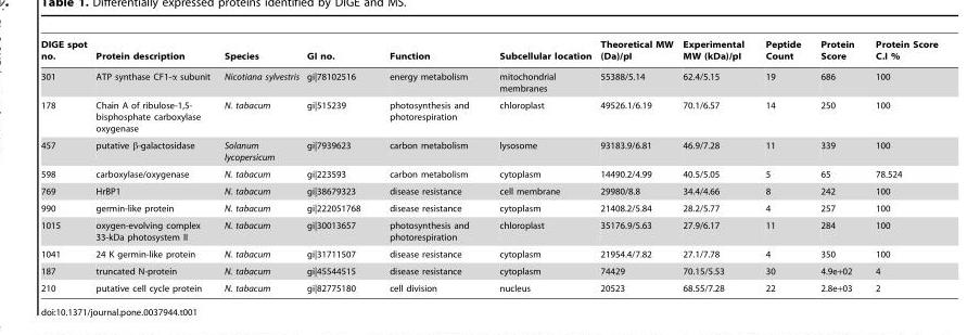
<table><thead><tr><td>DIGE spot no.</td><td>Protein description</td><td>Species</td><td>GI no.</td><td>Function</td><td>Subcellular location</td><td>Theoretical MW (Da)/pI</td><td>Experimental MW (kDa)/pI</td><td>Peptide Count</td><td>Protein Score</td><td>Protein Score C.I %</td></tr></thead><tbody><tr><td>301</td><td>ATP synthase CF1-α subunit</td><td>Nicotiana sylvestris</td><td>gi|78102516</td><td>energy metabolism</td><td>mitochondrial membranes</td><td>55388/5.14</td><td>62.4/5.15</td><td>19</td><td>686</td><td>100</td></tr><tr><td>178</td><td>Chain A of ribulose-1,5- bisphosphate carboxylase oxygenase</td><td>N. tabacum</td><td>gi|515239</td><td>photosynthesis and photorespiration</td><td>chloroplast</td><td>49526.1/6.19</td><td>70.1/6.57</td><td>14</td><td>250</td><td>100</td></tr><tr><td>457</td><td>putative β-galactosidase</td><td>Solanum lycopersicum</td><td>gi|7939623</td><td>carbon metabolism</td><td>lysosome</td><td>93183.9/6.81</td><td>46.9/7.28</td><td>11</td><td>339</td><td>100</td></tr><tr><td>598</td><td>carboxylase/oxygenase</td><td>N. tabacum</td><td>gi|223593</td><td>carbon metabolism</td><td>cytoplasm</td><td>14490.2/4.99</td><td>40.5/5.05</td><td>5</td><td>65</td><td>78.524</td></tr><tr><td>769</td><td>HrBP1</td><td>N. tabacum</td><td>gi|38679323</td><td>disease resistance</td><td>cell membrane</td><td>29980/8.8</td><td>34.4/4.66</td><td>8</td><td>242</td><td>100</td></tr><tr><td>990</td><td>germin-like protein</td><td>N. tabacum</td><td>gi|222051768</td><td>disease resistance</td><td>cytoplasm</td><td>21408.2/5.84</td><td>28.2/5.77</td><td>4</td><td>257</td><td>100</td></tr><tr><td>1015</td><td>oxygen-evolving complex 33-kDa photosystem II</td><td>N. tabacum</td><td>gi|30013657</td><td>photosynthesis and photorespiration</td><td>chloroplast</td><td>35176.9/5.63</td><td>27.9/6.17</td><td>11</td><td>284</td><td>100</td></tr><tr><td>1041</td><td>24 K germin-like protein</td><td>N. tabacum</td><td>gi|31711507</td><td>disease resistance</td><td>cytoplasm</td><td>21954.4/7.82</td><td>27.1/7.78</td><td>4</td><td>350</td><td>100</td></tr><tr><td>187</td><td>truncated N-protein</td><td>N. tabacum</td><td>gi|45544515</td><td>disease resistance</td><td>cytoplasm</td><td>74429</td><td>70.15/5.53</td><td>30</td><td>4.9e+02</td><td>4</td></tr><tr><td>210</td><td>putative cell cycle protein</td><td>N. tabacum</td><td>gi|82775180</td><td>cell division</td><td>nucleus</td><td>20523</td><td>68.55/7.28</td><td>22</td><td>2.8e+03</td><td>2</td></tr></tbody></table>